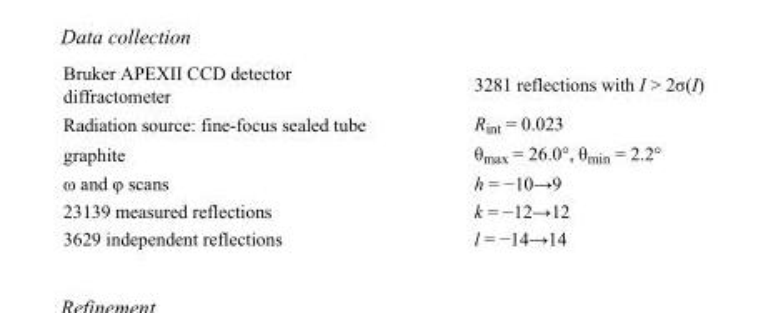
<table><tbody><tr><td>Bruker APEXII CCD detector diffractometer</td><td>3281 reflections with I &gt; 2σ(I)</td></tr><tr><td>Radiation source: fine-focus sealed tube</td><td>R<sub>int</sub> = 0.023</td></tr><tr><td>graphite</td><td>θ<sub>max</sub> = 26.0°, θ<sub>min</sub> = 2.2°</td></tr><tr><td>ω and φ scans</td><td>h = −10→9</td></tr><tr><td>23139 measured reflections</td><td>k = −12→12</td></tr><tr><td>3629 independent reflections</td><td>l = −14→14</td></tr></tbody></table>